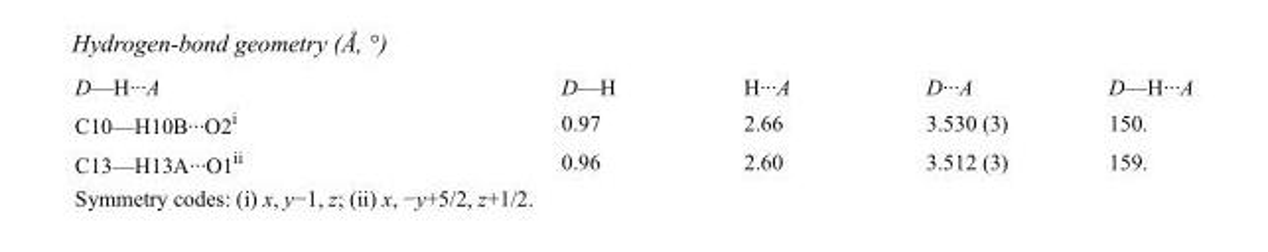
<table><tbody><tr><td>D—H···A</td><td>D—H</td><td>H···A</td><td>D···A</td><td>D—H···A</td></tr><tr><td>C10—H10B···O2<sup>i</sup></td><td>0.97</td><td>2.66</td><td>3.530 (3)</td><td>150.</td></tr><tr><td>C13—H13A···O1<sup>ii</sup></td><td>0.96</td><td>2.60</td><td>3.512 (3)</td><td>159.</td></tr></tbody></table>